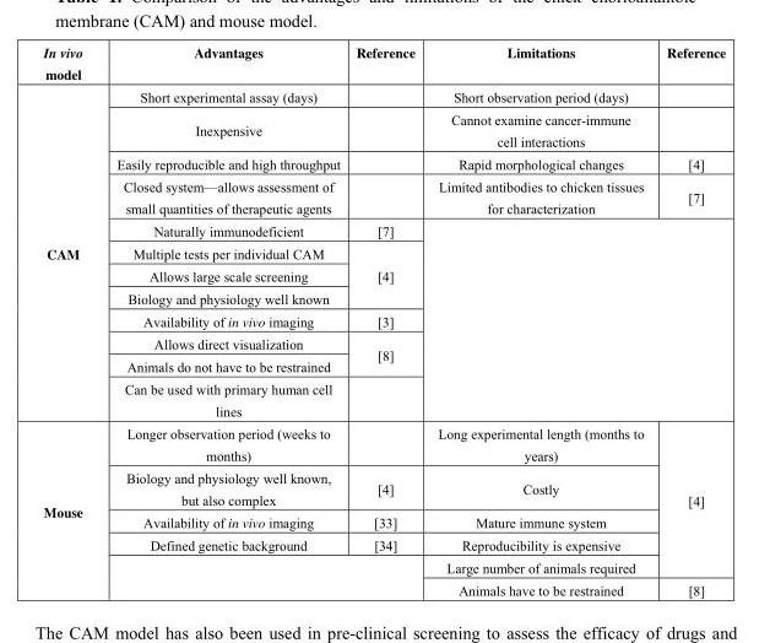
<table><thead><tr><td>In vivo model</td><td>Advantages</td><td>Reference</td><td>Limitations</td><td>Reference</td></tr></thead><tbody><tr><td rowspan="12">CAM</td><td>Short experimental assay (days)</td><td></td><td>Short observation period (days)</td><td></td></tr><tr><td>Inexpensive</td><td></td><td>Cannot examine cancer-immune cell interactions</td><td></td></tr><tr><td>Easily reproducible and high throughput</td><td></td><td>Rapid morphological changes</td><td>[4]</td></tr><tr><td>Closed system—allows assessment of small quantities of therapeutic agents</td><td></td><td>Limited antibodies to chicken tissues for characterization</td><td>[7]</td></tr><tr><td>Naturally immunodeficient</td><td>[7]</td><td rowspan="8" colspan="2"></td></tr><tr><td>Multiple tests per individual CAM</td><td rowspan="3">[4]</td></tr><tr><td>Allows large scale screening</td></tr><tr><td>Biology and physiology well known</td></tr><tr><td>Availability of in vivo imaging</td><td>[3]</td></tr><tr><td>Allows direct visualization</td><td rowspan="2">[8]</td></tr><tr><td>Animals do not have to be restrained</td></tr><tr><td>Can be used with primary human cell lines</td><td></td></tr><tr><td rowspan="6">Mouse</td><td>Longer observation period (weeks to months)</td><td></td><td>Long experimental length (months to years)</td><td rowspan="5">[4]</td></tr><tr><td>Biology and physiology well known, but also complex</td><td>[4]</td><td>Costly</td></tr><tr><td>Availability of in vivo imaging</td><td>[33]</td><td>Mature immune system</td></tr><tr><td>Defined genetic background</td><td>[34]</td><td>Reproducibility is expensive</td></tr><tr><td rowspan="2" colspan="2"></td><td>Large number of animals required</td></tr><tr><td>Animals have to be restrained</td><td>[8]</td></tr></tbody></table>